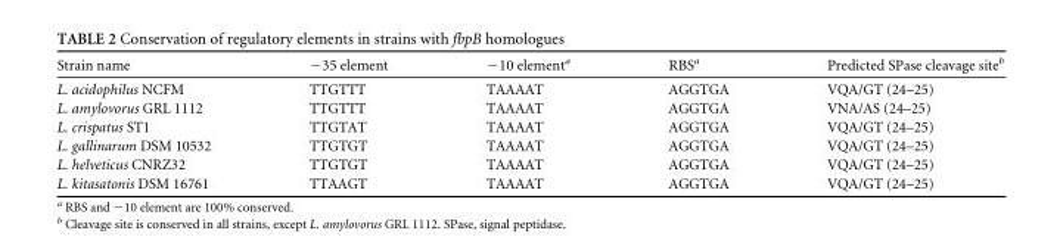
<table><thead><tr><td>Strain name</td><td>−35 element</td><td>−10 element<sup>a</sup></td><td>RBS<sup>a</sup></td><td>Predicted SPase cleavage site<sup>b</sup></td></tr></thead><tbody><tr><td>L. acidophilus NCFM</td><td>TTGTTT</td><td>TAAAAT</td><td>AGGTGA</td><td>VQA/GT (24–25)</td></tr><tr><td>L. amylovorus GRL 1112</td><td>TTGTTT</td><td>TAAAAT</td><td>AGGTGA</td><td>VNA/AS (24–25)</td></tr><tr><td>L. crispatus ST1</td><td>TTGTAT</td><td>TAAAAT</td><td>AGGTGA</td><td>VQA/GT (24–25)</td></tr><tr><td>L. gallinarum DSM 10532</td><td>TTGTGT</td><td>TAAAAT</td><td>AGGTGA</td><td>VQA/GT (24–25)</td></tr><tr><td>L. helveticus CNRZ32</td><td>TTGTGT</td><td>TAAAAT</td><td>AGGTGA</td><td>VQA/GT (24–25)</td></tr><tr><td>L. kitasatonis DSM 16761</td><td>TTAAGT</td><td>TAAAAT</td><td>AGGTGA</td><td>VQA/GT (24–25)</td></tr></tbody></table>